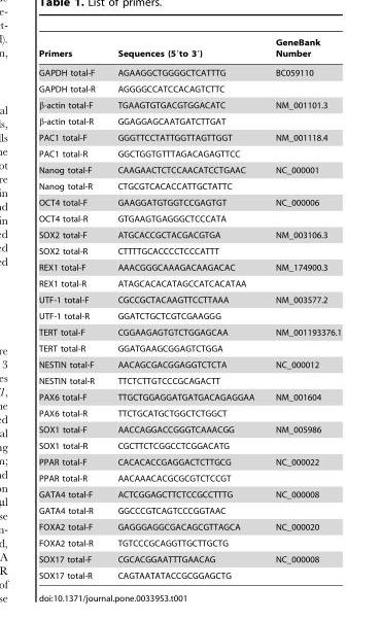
<table><thead><tr><td>Primers</td><td>Sequences (5′to 3′)</td><td>GeneBank Number</td></tr></thead><tbody><tr><td>GAPDH total-F</td><td>AGAAGGCTGGGGCTCATTTG</td><td>BC059110</td></tr><tr><td>GAPDH total-R</td><td>AGGGGCCATCCACAGTCTTC</td><td></td></tr><tr><td>β-actin total-F</td><td>TGAAGTGTGACGTGGACATC</td><td>NM_001101.3</td></tr><tr><td>β-actin total-R</td><td>GGAGGAGCAATGATCTTGAT</td><td></td></tr><tr><td>PAC1 total-F</td><td>GGGTTCCTATTGGTTAGTTGGT</td><td>NM_001118.4</td></tr><tr><td>PAC1 total-R</td><td>GGCTGGTGTTTAGACAGAGTTCC</td><td></td></tr><tr><td>Nanog total-F</td><td>CAAGAACTCTCCAACATCCTGAAC</td><td>NC_000001</td></tr><tr><td>Nanog total-R</td><td>CTGCGTCACACCATTGCTATTC</td><td></td></tr><tr><td>OCT4 total-F</td><td>GAAGGATGTGGTCCGAGTGT</td><td>NC_000006</td></tr><tr><td>OCT4 total-R</td><td>GTGAAGTGAGGGCTCCCATA</td><td></td></tr><tr><td>SOX2 total-F</td><td>ATGCACCGCTACGACGTGA</td><td>NM_003106.3</td></tr><tr><td>SOX2 total-R</td><td>CTTTTGCACCCCTCCCATTT</td><td></td></tr><tr><td>REX1 total-F</td><td>AAACGGGCAAAGACAAGACAC</td><td>NM_174900.3</td></tr><tr><td>REX1 total-R</td><td>ATAGCACACATAGCCATCACATAA</td><td></td></tr><tr><td>UTF-1 total-F</td><td>CGCCGCTACAAGTTCCTTAAA</td><td>NM_003577.2</td></tr><tr><td>UTF-1 total-R</td><td>GGATCTGCTCGTCGAAGGG</td><td></td></tr><tr><td>TERT total-F</td><td>CGGAAGAGTGTCTGGAGCAA</td><td>NM_001193376.1</td></tr><tr><td>TERT total-R</td><td>GGATGAAGCGGAGTCTGGA</td><td></td></tr><tr><td>NESTIN total-F</td><td>AACAGCGACGGAGGTCTCTA</td><td>NC_000012</td></tr><tr><td>NESTIN total-R</td><td>TTCTCTTGTCCCGCAGACTT</td><td></td></tr><tr><td>PAX6 total-F</td><td>TTGCTGGAGGATGATGACAGAGGAA</td><td>NM_001604</td></tr><tr><td>PAX6 total-R</td><td>TTCTGCATGCTGGCTCTGGCT</td><td></td></tr><tr><td>SOX1 total-F</td><td>AACCAGGACCGGGTCAAACGG</td><td>NM_005986</td></tr><tr><td>SOX1 total-R</td><td>CGCTTCTCGGCCTCGGACATG</td><td></td></tr><tr><td>PPAR total-F</td><td>CACACACCGAGGACTCTTGCG</td><td>NC_000022</td></tr><tr><td>PPAR total-R</td><td>AACAAACACGCGCGTCTCCGT</td><td></td></tr><tr><td>GATA4 total-F</td><td>ACTCGGAGCTTCTCCGCCTTTG</td><td>NC_000008</td></tr><tr><td>GATA4 total-R</td><td>GGCCCGTCAGTCCCGGTAAC</td><td></td></tr><tr><td>FOXA2 total-F</td><td>GAGGGAGGCGACAGCGTTAGCA</td><td>NC_000020</td></tr><tr><td>FOXA2 total-R</td><td>TGTCCCGCAGGTTGCTTGCTG</td><td></td></tr><tr><td>SOX17 total-F</td><td>CGCACGGAATTTGAACAG</td><td>NC_000008</td></tr><tr><td>SOX17 total-R</td><td>CAGTAATATACCGCGGAGCTG</td><td></td></tr></tbody></table>